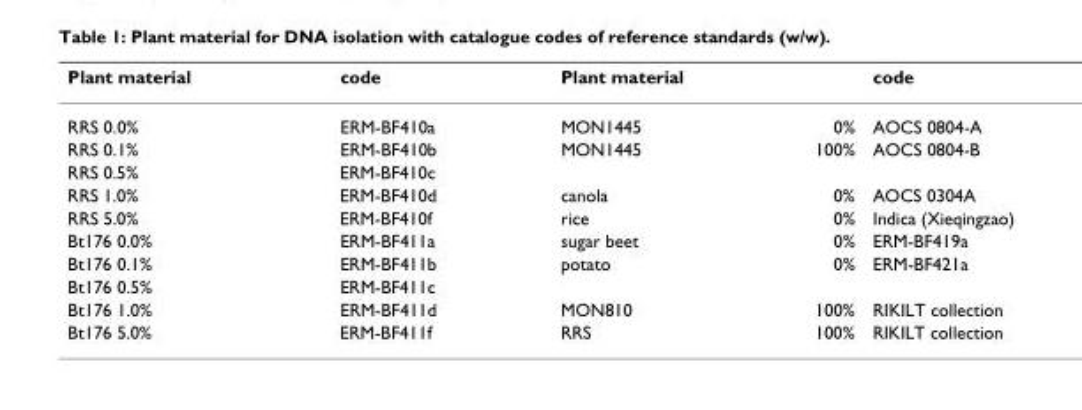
<table><thead><tr><td rowspan="2">Plant material RRS 0.0%</td><td rowspan="2">code ERM-BF410a</td><td colspan="2">Plant material</td><td rowspan="2">code AOCS 0804-A</td></tr><tr><td>MON1445</td><td>0%</td></tr></thead><tbody><tr><td>RRS 0.1%</td><td>ERM-BF410b</td><td>MON1445</td><td>100%</td><td>AOCS 0804-B</td></tr><tr><td>RRS 0.5%</td><td>ERM-BF410c</td><td></td><td></td><td></td></tr><tr><td>RRS 1.0%</td><td>ERM-BF410d</td><td>canola</td><td>0%</td><td>AOCS 0304A</td></tr><tr><td>RRS 5.0%</td><td>ERM-BF410f</td><td>rice</td><td>0%</td><td>Indica (Xieqingzao)</td></tr><tr><td>Bt176 0.0%</td><td>ERM-BF411a</td><td>sugar beet</td><td>0%</td><td>ERM-BF419a</td></tr><tr><td>Bt176 0.1%</td><td>ERM-BF411b</td><td>potato</td><td>0%</td><td>ERM-BF421a</td></tr><tr><td>Bt176 0.5%</td><td>ERM-BF411c</td><td></td><td></td><td></td></tr><tr><td>Bt176 1.0%</td><td>ERM-BF411d</td><td>MON810</td><td>100%</td><td>RIKILT collection</td></tr><tr><td>Bt176 5.0%</td><td>ERM-BF411f</td><td>RRS</td><td>100%</td><td>RIKILT collection</td></tr></tbody></table>